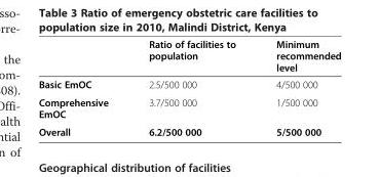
<table><thead><tr><td></td><td>Ratio of facilities to population</td><td>Minimum recommended level</td></tr></thead><tbody><tr><td>Basic EmOC</td><td>2.5/500 000</td><td>4/500 000</td></tr><tr><td>Comprehensive EmOC</td><td>3.7/500 000</td><td>1/500 000</td></tr><tr><td>Overall</td><td>6.2/500 000</td><td>5/500 000</td></tr></tbody></table>